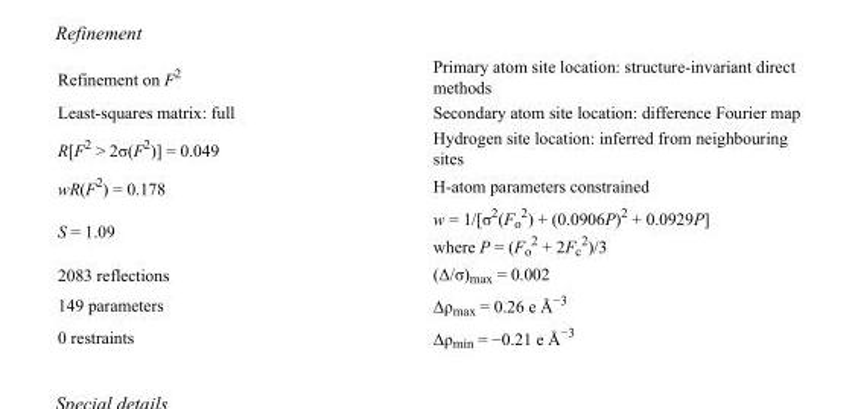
<table><tbody><tr><td>Refinement on F<sup>2</sup></td><td>Primary atom site location: structure-invariant direct methods</td></tr><tr><td>Least-squares matrix: full</td><td>Secondary atom site location: difference Fourier map</td></tr><tr><td>R[F<sup>2</sup> &gt; 2σ(F<sup>2</sup>)] = 0.049</td><td>Hydrogen site location: inferred from neighbouring sites</td></tr><tr><td>wR(F<sup>2</sup>) = 0.178</td><td>H-atom parameters constrained</td></tr><tr><td>S = 1.09</td><td>w = 1/[σ<sup>2</sup>(F<sub>o</sub> <sup>2</sup>) + (0.0906P)<sup>2</sup> + 0.0929P] where P = (F<sub>o</sub> <sup>2</sup> + 2F<sub>c</sub> <sup>2</sup>)/3</td></tr><tr><td>2083 reflections</td><td>(Δ/σ)<sub>max</sub> = 0.002</td></tr><tr><td>149 parameters</td><td>Δρ<sub>max</sub> = 0.26 e Å<sup>−3</sup></td></tr><tr><td>0 restraints</td><td>Δρmin = −0.21 e Å−3</td></tr></tbody></table>